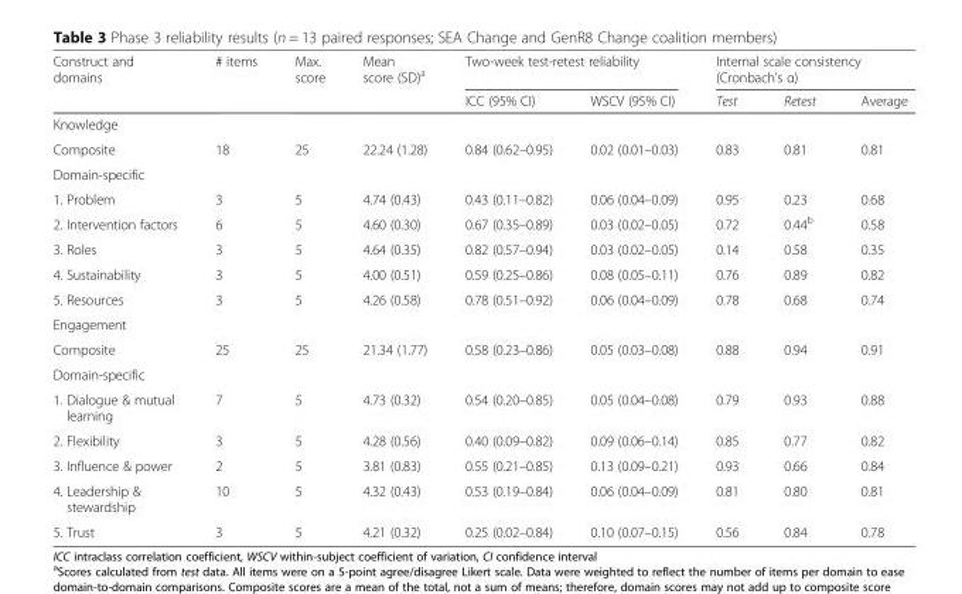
<table><thead><tr><td rowspan="2">Construct and domains</td><td rowspan="2"># items</td><td rowspan="2">Max. score</td><td rowspan="2">Mean score (SD)<sup>a</sup></td><td colspan="2">Two-week test-retest reliability</td><td colspan="3">Internal scale consistency (Cronbach’s α)</td></tr><tr><td>ICC (95% CI)</td><td>WSCV (95% CI)</td><td>Test</td><td>Retest</td><td>Average</td></tr></thead><tbody><tr><td colspan="9">Knowledge</td></tr><tr><td>Composite</td><td>18</td><td>25</td><td>22.24 (1.28)</td><td>0.84 (0.62–0.95)</td><td>0.02 (0.01–0.03)</td><td>0.83</td><td>0.81</td><td>0.81</td></tr><tr><td colspan="9">Domain-specific</td></tr><tr><td>1. Problem</td><td>3</td><td>5</td><td>4.74 (0.43)</td><td>0.43 (0.11–0.82)</td><td>0.06 (0.04–0.09)</td><td>0.95</td><td>0.23</td><td>0.68</td></tr><tr><td>2. Intervention factors</td><td>6</td><td>5</td><td>4.60 (0.30)</td><td>0.67 (0.35–0.89)</td><td>0.03 (0.02–0.05)</td><td>0.72</td><td>0.44<sup>b</sup></td><td>0.58</td></tr><tr><td>3. Roles</td><td>3</td><td>5</td><td>4.64 (0.35)</td><td>0.82 (0.57–0.94)</td><td>0.03 (0.02–0.05)</td><td>0.14</td><td>0.58</td><td>0.35</td></tr><tr><td>4. Sustainability</td><td>3</td><td>5</td><td>4.00 (0.51)</td><td>0.59 (0.25–0.86)</td><td>0.08 (0.05–0.11)</td><td>0.76</td><td>0.89</td><td>0.82</td></tr><tr><td>5. Resources</td><td>3</td><td>5</td><td>4.26 (0.58)</td><td>0.78 (0.51–0.92)</td><td>0.06 (0.04–0.09)</td><td>0.78</td><td>0.68</td><td>0.74</td></tr><tr><td colspan="9">Engagement</td></tr><tr><td>Composite</td><td>25</td><td>25</td><td>21.34 (1.77)</td><td>0.58 (0.23–0.86)</td><td>0.05 (0.03–0.08)</td><td>0.88</td><td>0.94</td><td>0.91</td></tr><tr><td colspan="9">Domain-specific</td></tr><tr><td>1. Dialogue &amp; mutual learning</td><td>7</td><td>5</td><td>4.73 (0.32)</td><td>0.54 (0.20–0.85)</td><td>0.05 (0.04–0.08)</td><td>0.79</td><td>0.93</td><td>0.88</td></tr><tr><td>2. Flexibility</td><td>3</td><td>5</td><td>4.28 (0.56)</td><td>0.40 (0.09–0.82)</td><td>0.09 (0.06–0.14)</td><td>0.85</td><td>0.77</td><td>0.82</td></tr><tr><td>3. Influence &amp; power</td><td>2</td><td>5</td><td>3.81 (0.83)</td><td>0.55 (0.21–0.85)</td><td>0.13 (0.09–0.21)</td><td>0.93</td><td>0.66</td><td>0.84</td></tr><tr><td>4. Leadership &amp; stewardship</td><td>10</td><td>5</td><td>4.32 (0.43)</td><td>0.53 (0.19–0.84)</td><td>0.06 (0.04–0.09)</td><td>0.81</td><td>0.80</td><td>0.81</td></tr><tr><td>5. Trust</td><td>3</td><td>5</td><td>4.21 (0.32)</td><td>0.25 (0.02–0.84)</td><td>0.10 (0.07–0.15)</td><td>0.56</td><td>0.84</td><td>0.78</td></tr></tbody></table>